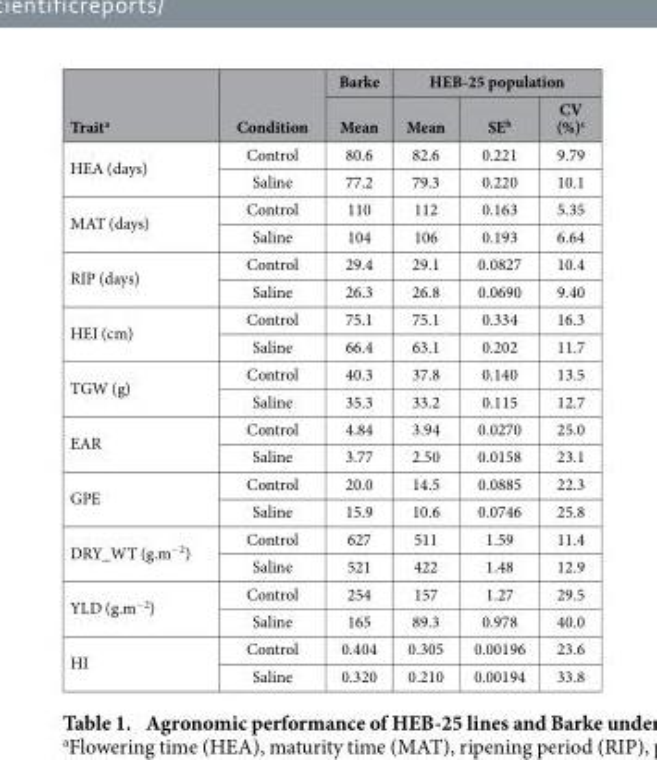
<table><thead><tr><td rowspan="2">Trait<sup>a</sup></td><td rowspan="2">Condition</td><td rowspan="2">Barke Mean</td><td colspan="3">HEB-25 population</td></tr><tr><td>Mean</td><td>SE<sup>b</sup></td><td>CV (%)<sup>c</sup></td></tr></thead><tbody><tr><td rowspan="2">HEA (days)</td><td>Control</td><td>80.6</td><td>82.6</td><td>0.221</td><td>9.79</td></tr><tr><td>Saline</td><td>77.2</td><td>79.3</td><td>0.220</td><td>10.1</td></tr><tr><td rowspan="2">MAT (days)</td><td>Control</td><td>110</td><td>112</td><td>0.163</td><td>5.35</td></tr><tr><td>Saline</td><td>104</td><td>106</td><td>0.193</td><td>6.64</td></tr><tr><td rowspan="2">RIP (days)</td><td>Control</td><td>29.4</td><td>29.1</td><td>0.0827</td><td>10.4</td></tr><tr><td>Saline</td><td>26.3</td><td>26.8</td><td>0.0690</td><td>9.40</td></tr><tr><td rowspan="2">HEI (cm)</td><td>Control</td><td>75.1</td><td>75.1</td><td>0.334</td><td>16.3</td></tr><tr><td>Saline</td><td>66.4</td><td>63.1</td><td>0.202</td><td>11.7</td></tr><tr><td rowspan="2">TGW (g)</td><td>Control</td><td>40.3</td><td>37.8</td><td>0.140</td><td>13.5</td></tr><tr><td>Saline</td><td>35.3</td><td>33.2</td><td>0.115</td><td>12.7</td></tr><tr><td rowspan="2">EAR</td><td>Control</td><td>4.84</td><td>3.94</td><td>0.0270</td><td>25.0</td></tr><tr><td>Saline</td><td>3.77</td><td>2.50</td><td>0.0158</td><td>23.1</td></tr><tr><td rowspan="2">GPE</td><td>Control</td><td>20.0</td><td>14.5</td><td>0.0885</td><td>22.3</td></tr><tr><td>Saline</td><td>15.9</td><td>10.6</td><td>0.0746</td><td>25.8</td></tr><tr><td rowspan="2">DRY_WT (g.m<sup>−2</sup>)</td><td>Control</td><td>627</td><td>511</td><td>1.59</td><td>11.4</td></tr><tr><td>Saline</td><td>521</td><td>422</td><td>1.48</td><td>12.9</td></tr><tr><td rowspan="2">YLD (g.m<sup>−2</sup>)</td><td>Control</td><td>254</td><td>157</td><td>1.27</td><td>29.5</td></tr><tr><td>Saline</td><td>165</td><td>89.3</td><td>0.978</td><td>40.0</td></tr><tr><td rowspan="2">HI</td><td>Control</td><td>0.404</td><td>0.305</td><td>0.00196</td><td>23.6</td></tr><tr><td>Saline</td><td>0.320</td><td>0.210</td><td>0.00194</td><td>33.8</td></tr></tbody></table>